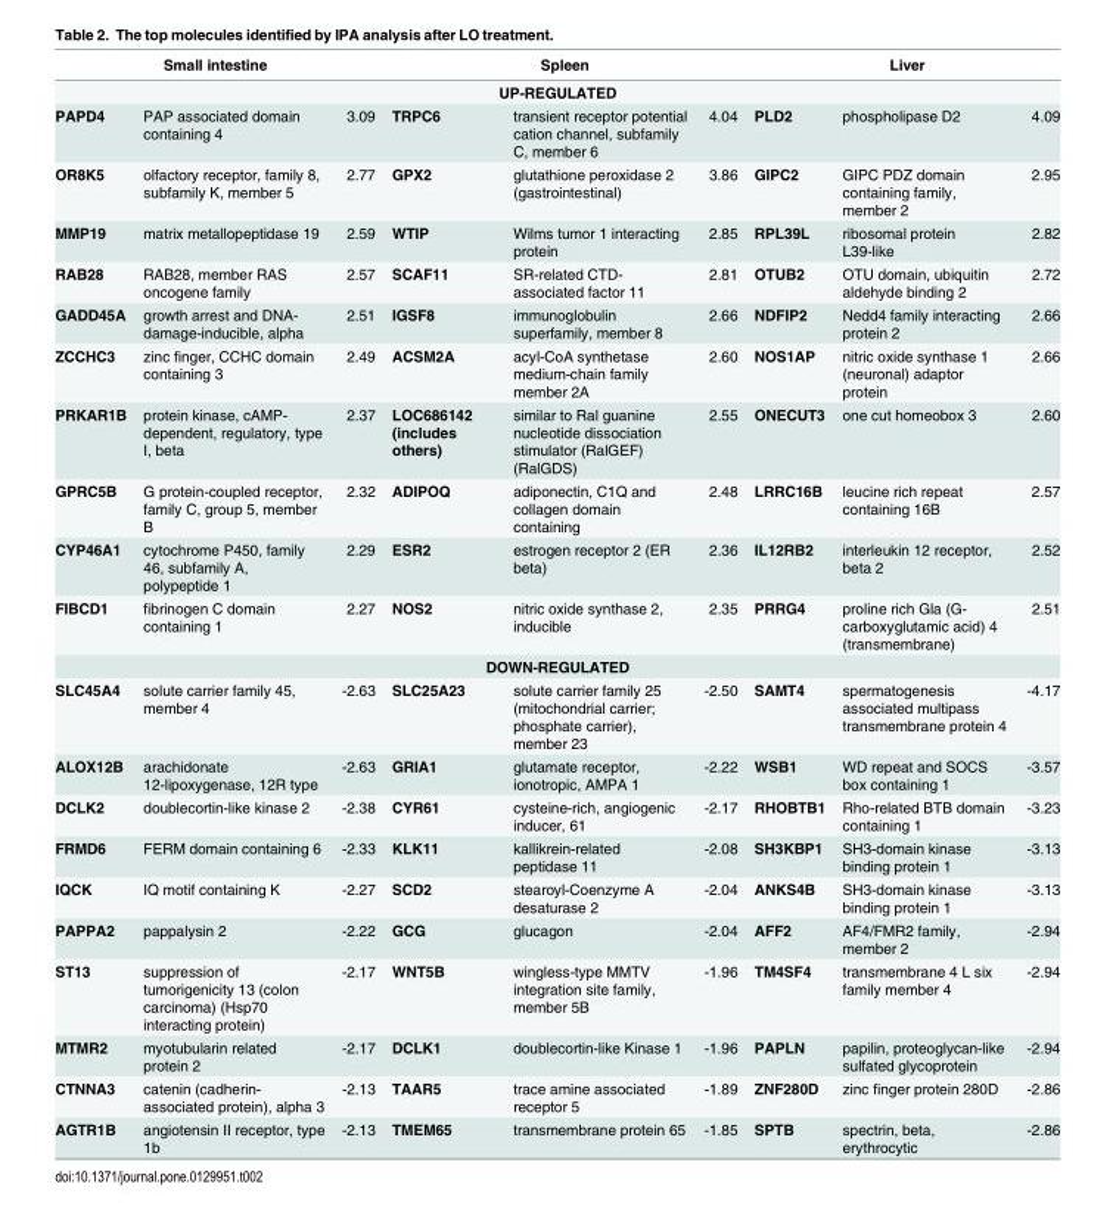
<table><thead><tr><td colspan="3">Small intestine</td><td colspan="3">Spleen</td><td colspan="3">Liver</td></tr><tr><td colspan="9">UP-REGULATED</td></tr><tr><td>PAPD4</td><td>PAP associated domain containing 4</td><td>3.09</td><td>TRPC6</td><td>transient receptor potential cation channel, subfamily C, member 6</td><td>4.04</td><td>PLD2</td><td>phospholipase D2</td><td>4.09</td></tr></thead><tbody><tr><td>OR8K5</td><td>olfactory receptor, family 8, subfamily K, member 5</td><td>2.77</td><td>GPX2</td><td>glutathione peroxidase 2 (gastrointestinal)</td><td>3.86</td><td>GIPC2</td><td>GIPC PDZ domain containing family, member 2</td><td>2.95</td></tr><tr><td>MMP19</td><td>matrix metallopeptidase 19</td><td>2.59</td><td>WTIP</td><td>Wilms tumor 1 interacting protein</td><td>2.85</td><td>RPL39L</td><td>ribosomal protein L39-like</td><td>2.82</td></tr><tr><td>RAB28</td><td>RAB28, member RAS oncogene family</td><td>2.57</td><td>SCAF11</td><td>SR-related CTD- associated factor 11</td><td>2.81</td><td>OTUB2</td><td>OTU domain, ubiquitin aldehyde binding 2</td><td>2.72</td></tr><tr><td>GADD45A</td><td>growth arrest and DNA- damage-inducible, alpha</td><td>2.51</td><td>IGSF8</td><td>immunoglobulin superfamily, member 8</td><td>2.66</td><td>NDFIP2</td><td>Nedd4 family interacting protein 2</td><td>2.66</td></tr><tr><td>ZCCHC3</td><td>zinc finger, CCHC domain containing 3</td><td>2.49</td><td>ACSM2A</td><td>acyl-CoA synthetase medium-chain family member 2A</td><td>2.60</td><td>NOS1AP</td><td>nitric oxide synthase 1 (neuronal) adaptor protein</td><td>2.66</td></tr><tr><td>PRKAR1B</td><td>protein kinase, cAMP- dependent, regulatory, type I, beta</td><td>2.37</td><td>LOC686142 (includes others)</td><td>similar to Ral guanine nucleotide dissociation stimulator (RalGEF) (RalGDS)</td><td>2.55</td><td>ONECUT3</td><td>one cut homeobox 3</td><td>2.60</td></tr><tr><td>GPRC5B</td><td>G protein-coupled receptor, family C, group 5, member B</td><td>2.32</td><td>ADIPOQ</td><td>adiponectin, C1Q and collagen domain containing</td><td>2.48</td><td>LRRC16B</td><td>leucine rich repeat containing 16B</td><td>2.57</td></tr><tr><td>CYP46A1</td><td>cytochrome P450, family 46, subfamily A, polypeptide 1</td><td>2.29</td><td>ESR2</td><td>estrogen receptor 2 (ER beta)</td><td>2.36</td><td>IL12RB2</td><td>interleukin 12 receptor, beta 2</td><td>2.52</td></tr><tr><td>FIBCD1</td><td>fibrinogen C domain containing 1</td><td>2.27</td><td>NOS2</td><td>nitric oxide synthase 2, inducible</td><td>2.35</td><td>PRRG4</td><td>proline rich Gla (G- carboxyglutamic acid) 4 (transmembrane)</td><td>2.51</td></tr><tr><td colspan="9">DOWN-REGULATED</td></tr><tr><td>SLC45A4</td><td>solute carrier family 45, member 4</td><td>-2.63</td><td>SLC25A23</td><td>solute carrier family 25 (mitochondrial carrier; phosphate carrier), member 23</td><td>-2.50</td><td>SAMT4</td><td>spermatogenesis associated multipass transmembrane protein 4</td><td>-4.17</td></tr><tr><td>ALOX12B</td><td>arachidonate 12-lipoxygenase, 12R type</td><td>-2.63</td><td>GRIA1</td><td>glutamate receptor, ionotropic, AMPA 1</td><td>-2.22</td><td>WSB1</td><td>WD repeat and SOCS box containing 1</td><td>-3.57</td></tr><tr><td>DCLK2</td><td>doublecortin-like kinase 2</td><td>-2.38</td><td>CYR61</td><td>cysteine-rich, angiogenic inducer, 61</td><td>-2.17</td><td>RHOBTB1</td><td>Rho-related BTB domain containing 1</td><td>-3.23</td></tr><tr><td>FRMD6</td><td>FERM domain containing 6</td><td>-2.33</td><td>KLK11</td><td>kallikrein-related peptidase 11</td><td>-2.08</td><td>SH3KBP1</td><td>SH3-domain kinase binding protein 1</td><td>-3.13</td></tr><tr><td>IQCK</td><td>IQ motif containing K</td><td>-2.27</td><td>SCD2</td><td>stearoyl-Coenzyme A desaturase 2</td><td>-2.04</td><td>ANKS4B</td><td>SH3-domain kinase binding protein 1</td><td>-3.13</td></tr><tr><td>PAPPA2</td><td>pappalysin 2</td><td>-2.22</td><td>GCG</td><td>glucagon</td><td>-2.04</td><td>AFF2</td><td>AF4/FMR2 family, member 2</td><td>-2.94</td></tr><tr><td>ST13</td><td>suppression of tumorigenicity 13 (colon carcinoma) (Hsp70 interacting protein)</td><td>-2.17</td><td>WNT5B</td><td>wingless-type MMTV integration site family, member 5B</td><td>-1.96</td><td>TM4SF4</td><td>transmembrane 4 L six family member 4</td><td>-2.94</td></tr><tr><td>MTMR2</td><td>myotubularin related protein 2</td><td>-2.17</td><td>DCLK1</td><td>doublecortin-like Kinase 1</td><td>-1.96</td><td>PAPLN</td><td>papilin, proteoglycan-like sulfated glycoprotein</td><td>-2.94</td></tr><tr><td>CTNNA3</td><td>catenin (cadherin- associated protein), alpha 3</td><td>-2.13</td><td>TAAR5</td><td>trace amine associated receptor 5</td><td>-1.89</td><td>ZNF280D</td><td>zinc finger protein 280D</td><td>-2.86</td></tr><tr><td>AGTR1B</td><td>angiotensin II receptor, type 1b</td><td>-2.13</td><td>TMEM65</td><td>transmembrane protein 65</td><td>-1.85</td><td>SPTB</td><td>spectrin, beta, erythrocytic</td><td>-2.86</td></tr></tbody></table>